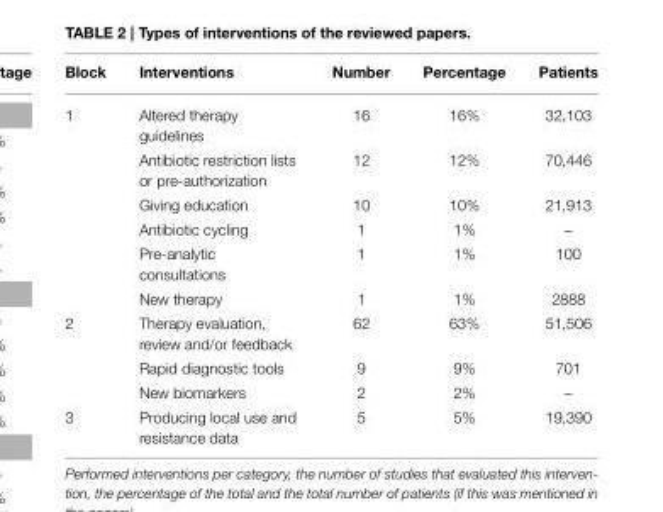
<table><thead><tr><td>Block</td><td>Interventions</td><td>Number</td><td>Percentage</td><td>Patients</td></tr></thead><tbody><tr><td rowspan="6">1</td><td>Altered therapy guidelines</td><td>16</td><td>16%</td><td>32,103</td></tr><tr><td>Antibiotic restriction lists or pre-authorization</td><td>12</td><td>12%</td><td>70,446</td></tr><tr><td>Giving education</td><td>10</td><td>10%</td><td>21,913</td></tr><tr><td>Antibiotic cycling</td><td>1</td><td>1%</td><td>–</td></tr><tr><td>Pre-analytic consultations</td><td>1</td><td>1%</td><td>100</td></tr><tr><td>New therapy</td><td>1</td><td>1%</td><td>2888</td></tr><tr><td rowspan="3">2</td><td>Therapy evaluation, review and/or feedback</td><td>62</td><td>63%</td><td>51,506</td></tr><tr><td>Rapid diagnostic tools</td><td>9</td><td>9%</td><td>701</td></tr><tr><td>New biomarkers</td><td>2</td><td>2%</td><td>–</td></tr><tr><td>3</td><td>Producing local use and resistance data</td><td>5</td><td>5%</td><td>19,390</td></tr></tbody></table>